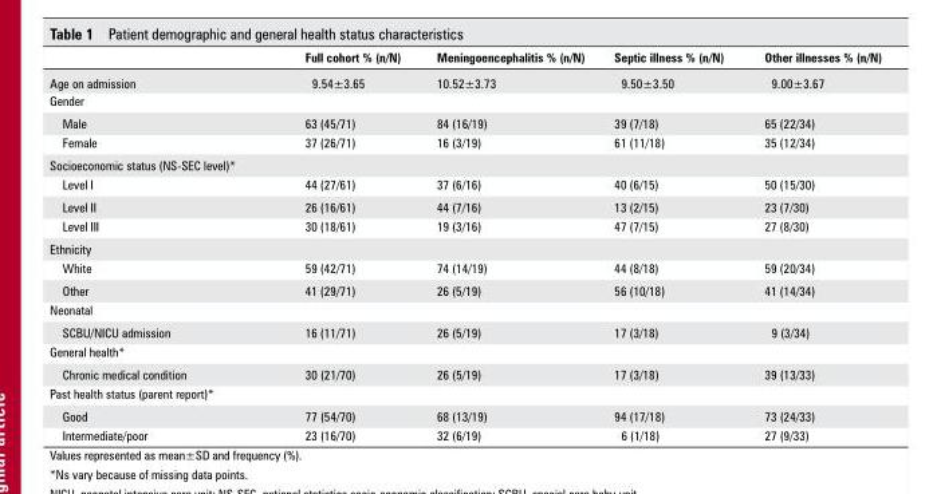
<table><thead><tr><td></td><td>Full cohort % (n/n)</td><td>Meningoencephalitis % (n/n)</td><td>septic illness % (n/n)</td><td>Other illnesses % (n/n)</td></tr></thead><tbody><tr><td>Age on admission</td><td>9.54±3.65</td><td>10.52±3.73</td><td>9.50±3.50</td><td>9.00±3.67</td></tr><tr><td colspan="5">Gender</td></tr><tr><td>Male</td><td>63 (45/71)</td><td>84 (16/19)</td><td>39 (7/18)</td><td>65 (22/34)</td></tr><tr><td>Female</td><td>37 (26/71)</td><td>16 (3/19)</td><td>61 (11/18)</td><td>35 (12/34)</td></tr><tr><td colspan="5">Socioeconomic status (NS-SEC level)*</td></tr><tr><td>Level I</td><td>44 (27/61)</td><td>37 (6/16)</td><td>40 (6/15)</td><td>50 (15/30)</td></tr><tr><td>Level II</td><td>26 (16/61)</td><td>44 (7/16)</td><td>13 (2/15)</td><td>23 (7/30)</td></tr><tr><td>Level III</td><td>30 (18/61)</td><td>19 (3/16)</td><td>47 (7/15)</td><td>27 (8/30)</td></tr><tr><td colspan="5">Ethnicity</td></tr><tr><td>White</td><td>59 (42/71)</td><td>74 (14/19)</td><td>44 (8/18)</td><td>59 (20/34)</td></tr><tr><td>Other</td><td>41 (29/71)</td><td>26 (5/19)</td><td>56 (10/18)</td><td>41 (14/34)</td></tr><tr><td colspan="5">Neonatal</td></tr><tr><td>SCBU/NICU admission</td><td>16 (11/71)</td><td>26 (5/19)</td><td>17 (3/18)</td><td>9 (3/34)</td></tr><tr><td colspan="5">General health*</td></tr><tr><td>Chronic medical condition</td><td>30 (21/70)</td><td>26 (5/19)</td><td>17 (3/18)</td><td>39 (13/33)</td></tr><tr><td colspan="5">Past health status (parent report)*</td></tr><tr><td>Good</td><td>77 (54/70)</td><td>68 (13/19)</td><td>94 (17/18)</td><td>73 (24/33)</td></tr><tr><td>Intermediate/poor</td><td>23 (16/70)</td><td>32 (6/19)</td><td>6 (1/18)</td><td>27 (9/33)</td></tr></tbody></table>